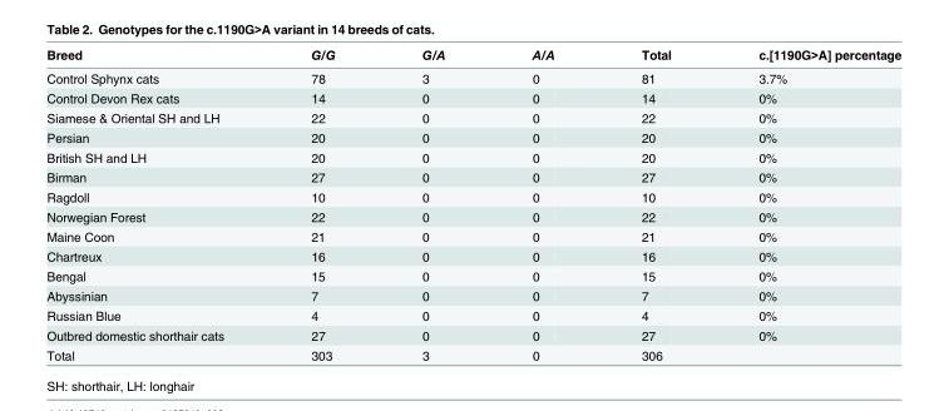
<table><thead><tr><td>Breed</td><td>G/G</td><td>G/A</td><td>A/A</td><td>Total</td><td>c.[1190G&gt;A] percentage</td></tr></thead><tbody><tr><td>Control Sphynx cats</td><td>78</td><td>3</td><td>0</td><td>81</td><td>3.7%</td></tr><tr><td>Control Devon Rex cats</td><td>14</td><td>0</td><td>0</td><td>14</td><td>0%</td></tr><tr><td>Siamese &amp; Oriental SH and LH</td><td>22</td><td>0</td><td>0</td><td>22</td><td>0%</td></tr><tr><td>Persian</td><td>20</td><td>0</td><td>0</td><td>20</td><td>0%</td></tr><tr><td>British SH and LH</td><td>20</td><td>0</td><td>0</td><td>20</td><td>0%</td></tr><tr><td>Birman</td><td>27</td><td>0</td><td>0</td><td>27</td><td>0%</td></tr><tr><td>Ragdoll</td><td>10</td><td>0</td><td>0</td><td>10</td><td>0%</td></tr><tr><td>Norwegian Forest</td><td>22</td><td>0</td><td>0</td><td>22</td><td>0%</td></tr><tr><td>Maine Coon</td><td>21</td><td>0</td><td>0</td><td>21</td><td>0%</td></tr><tr><td>Chartreux</td><td>16</td><td>0</td><td>0</td><td>16</td><td>0%</td></tr><tr><td>Bengal</td><td>15</td><td>0</td><td>0</td><td>15</td><td>0%</td></tr><tr><td>Abyssinian</td><td>7</td><td>0</td><td>0</td><td>7</td><td>0%</td></tr><tr><td>Russian Blue</td><td>4</td><td>0</td><td>0</td><td>4</td><td>0%</td></tr><tr><td>Outbred domestic shorthair cats</td><td>27</td><td>0</td><td>0</td><td>27</td><td>0%</td></tr><tr><td>Total</td><td>303</td><td>3</td><td>0</td><td>306</td><td></td></tr></tbody></table>